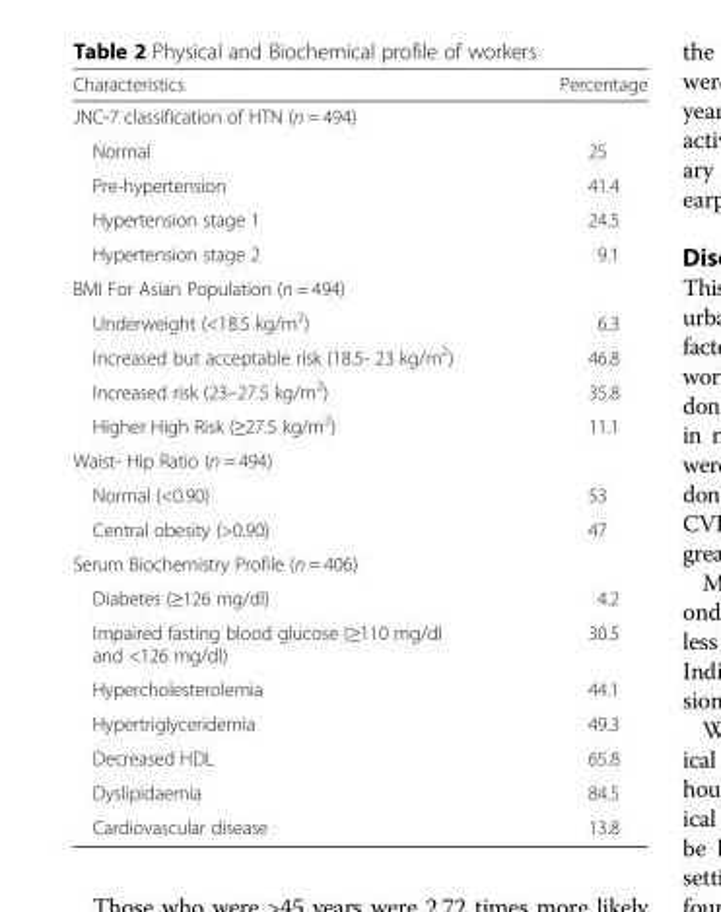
<table><thead><tr><td>Characteristics</td><td>Percentage</td></tr></thead><tbody><tr><td colspan="2">JNC-7 classification of HTN (n = 494)</td></tr><tr><td>Normal</td><td>25</td></tr><tr><td>Pre-hypertension</td><td>41.4</td></tr><tr><td>Hypertension stage 1</td><td>24.5</td></tr><tr><td>Hypertension stage 2</td><td>9.1</td></tr><tr><td colspan="2">BMI For Asian Population (n = 494)</td></tr><tr><td>Underweight (&lt;18.5 kg/m<sup>2</sup>)</td><td>6.3</td></tr><tr><td>Increased but acceptable risk (18.5- 23 kg/m<sup>2</sup>)</td><td>46.8</td></tr><tr><td>Increased risk (23–27.5 kg/m<sup>2</sup>)</td><td>35.8</td></tr><tr><td>Higher High Risk (≥27.5 kg/m<sup>2</sup>)</td><td>11.1</td></tr><tr><td colspan="2">Waist- Hip Ratio (n = 494)</td></tr><tr><td>Normal (&lt;0.90)</td><td>53</td></tr><tr><td>Central obesity (&gt;0.90)</td><td>47</td></tr><tr><td colspan="2">Serum Biochemistry Profile (n = 406)</td></tr><tr><td>Diabetes (≥126 mg/dl)</td><td>4.2</td></tr><tr><td>Impaired fasting blood glucose (≥110 mg/dl and &lt;126 mg/dl)</td><td>30.5</td></tr><tr><td>Hypercholesterolemia</td><td>44.1</td></tr><tr><td>Hypertriglyceridemia</td><td>49.3</td></tr><tr><td>Decreased HDL</td><td>65.8</td></tr><tr><td>Dyslipidaemia</td><td>84.5</td></tr><tr><td>Cardiovascular disease</td><td>13.8</td></tr></tbody></table>